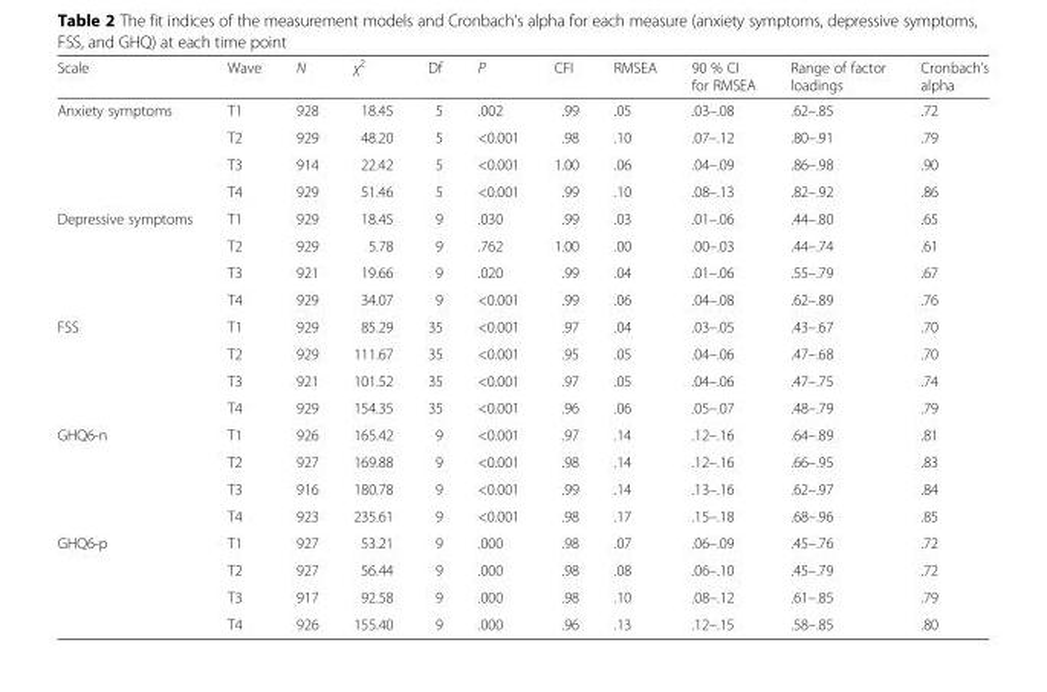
<table><thead><tr><td>Scale</td><td>Wave</td><td>N</td><td>χ<sup>2</sup></td><td>Df</td><td>P</td><td>CFI</td><td>RMSEA</td><td>90 % CI for RMSEA</td><td>Range of factor loadings</td><td>Cronbach’s alpha</td></tr></thead><tbody><tr><td rowspan="4">Anxiety symptoms</td><td>T1</td><td>928</td><td>18.45</td><td>5</td><td>.002</td><td>.99</td><td>.05</td><td>.03–.08</td><td>.62–.85</td><td>.72</td></tr><tr><td>T2</td><td>929</td><td>48.20</td><td>5</td><td>&lt;0.001</td><td>.98</td><td>.10</td><td>.07–.12</td><td>.80–.91</td><td>.79</td></tr><tr><td>T3</td><td>914</td><td>22.42</td><td>5</td><td>&lt;0.001</td><td>1.00</td><td>.06</td><td>.04–.09</td><td>.86–.98</td><td>.90</td></tr><tr><td>T4</td><td>929</td><td>51.46</td><td>5</td><td>&lt;0.001</td><td>.99</td><td>.10</td><td>.08–.13</td><td>.82–.92</td><td>.86</td></tr><tr><td rowspan="4">Depressive symptoms</td><td>T1</td><td>929</td><td>18.45</td><td>9</td><td>.030</td><td>.99</td><td>.03</td><td>.01–.06</td><td>.44–.80</td><td>.65</td></tr><tr><td>T2</td><td>929</td><td>5.78</td><td>9</td><td>.762</td><td>1.00</td><td>.00</td><td>.00–.03</td><td>.44–.74</td><td>.61</td></tr><tr><td>T3</td><td>921</td><td>19.66</td><td>9</td><td>.020</td><td>.99</td><td>.04</td><td>.01–.06</td><td>.55–.79</td><td>.67</td></tr><tr><td>T4</td><td>929</td><td>34.07</td><td>9</td><td>&lt;0.001</td><td>.99</td><td>.06</td><td>.04–.08</td><td>.62–.89</td><td>.76</td></tr><tr><td rowspan="4">FSS</td><td>T1</td><td>929</td><td>85.29</td><td>35</td><td>&lt;0.001</td><td>.97</td><td>.04</td><td>.03–.05</td><td>.43–.67</td><td>.70</td></tr><tr><td>T2</td><td>929</td><td>111.67</td><td>35</td><td>&lt;0.001</td><td>.95</td><td>.05</td><td>.04–.06</td><td>.47–.68</td><td>.70</td></tr><tr><td>T3</td><td>921</td><td>101.52</td><td>35</td><td>&lt;0.001</td><td>.97</td><td>.05</td><td>.04–.06</td><td>.47–.75</td><td>.74</td></tr><tr><td>T4</td><td>929</td><td>154.35</td><td>35</td><td>&lt;0.001</td><td>.96</td><td>.06</td><td>.05–.07</td><td>.48–.79</td><td>.79</td></tr><tr><td rowspan="4">GHQ6-n</td><td>T1</td><td>926</td><td>165.42</td><td>9</td><td>&lt;0.001</td><td>.97</td><td>.14</td><td>.12–.16</td><td>.64–.89</td><td>.81</td></tr><tr><td>T2</td><td>927</td><td>169.88</td><td>9</td><td>&lt;0.001</td><td>.98</td><td>.14</td><td>.12–.16</td><td>.66–.95</td><td>.83</td></tr><tr><td>T3</td><td>916</td><td>180.78</td><td>9</td><td>&lt;0.001</td><td>.99</td><td>.14</td><td>.13–.16</td><td>.62–.97</td><td>.84</td></tr><tr><td>T4</td><td>923</td><td>235.61</td><td>9</td><td>&lt;0.001</td><td>.98</td><td>.17</td><td>.15–.18</td><td>.68–.96</td><td>.85</td></tr><tr><td rowspan="4">GHQ6-p</td><td>T1</td><td>927</td><td>53.21</td><td>9</td><td>.000</td><td>.98</td><td>.07</td><td>.06–.09</td><td>.45–.76</td><td>.72</td></tr><tr><td>T2</td><td>927</td><td>56.44</td><td>9</td><td>.000</td><td>.98</td><td>.08</td><td>.06–.10</td><td>.45–.79</td><td>.72</td></tr><tr><td>T3</td><td>917</td><td>92.58</td><td>9</td><td>.000</td><td>.98</td><td>.10</td><td>.08–.12</td><td>.61–.85</td><td>.79</td></tr><tr><td>T4</td><td>926</td><td>155.40</td><td>9</td><td>.000</td><td>.96</td><td>.13</td><td>.12–.15</td><td>.58–.85</td><td>.80</td></tr></tbody></table>